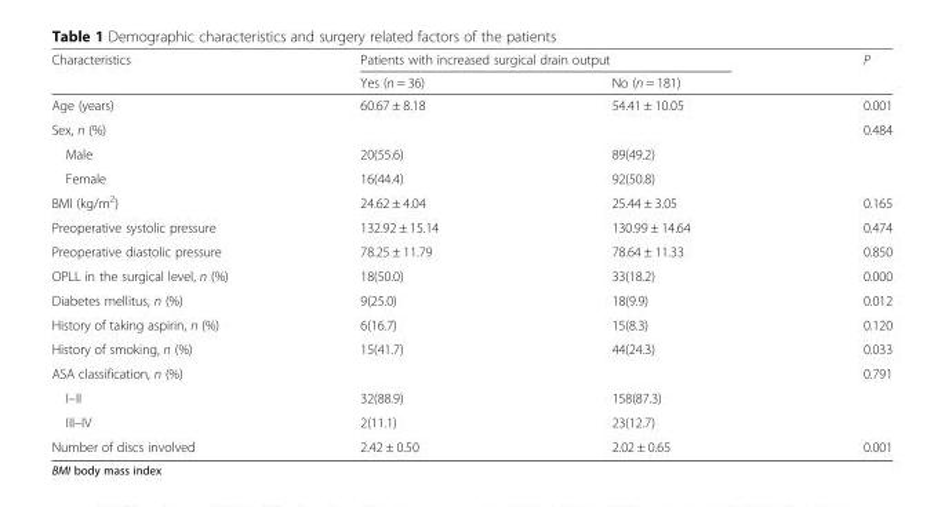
<table><thead><tr><td rowspan="2">Characteristics</td><td colspan="2">Patients with increased surgical drain output</td><td rowspan="2">P</td></tr><tr><td>Yes (n = 36)</td><td>No (n = 181)</td></tr></thead><tbody><tr><td>Age (years)</td><td>60.67 ± 8.18</td><td>54.41 ± 10.05</td><td>0.001</td></tr><tr><td>Sex, n (%)</td><td></td><td></td><td>0.484</td></tr><tr><td>Male</td><td>20(55.6)</td><td>89(49.2)</td><td></td></tr><tr><td>Female</td><td>16(44.4)</td><td>92(50.8)</td><td></td></tr><tr><td>BMI (kg/m<sup>2</sup>)</td><td>24.62 ± 4.04</td><td>25.44 ± 3.05</td><td>0.165</td></tr><tr><td>Preoperative systolic pressure</td><td>132.92 ± 15.14</td><td>130.99 ± 14.64</td><td>0.474</td></tr><tr><td>Preoperative diastolic pressure</td><td>78.25 ± 11.79</td><td>78.64 ± 11.33</td><td>0.850</td></tr><tr><td>OPLL in the surgical level, n (%)</td><td>18(50.0)</td><td>33(18.2)</td><td>0.000</td></tr><tr><td>Diabetes mellitus, n (%)</td><td>9(25.0)</td><td>18(9.9)</td><td>0.012</td></tr><tr><td>History of taking aspirin, n (%)</td><td>6(16.7)</td><td>15(8.3)</td><td>0.120</td></tr><tr><td>History of smoking, n (%)</td><td>15(41.7)</td><td>44(24.3)</td><td>0.033</td></tr><tr><td>ASA classification, n (%)</td><td></td><td></td><td>0.791</td></tr><tr><td>I–II</td><td>32(88.9)</td><td>158(87.3)</td><td></td></tr><tr><td>III–IV</td><td>2(11.1)</td><td>23(12.7)</td><td></td></tr><tr><td>Number of discs involved</td><td>2.42 ± 0.50</td><td>2.02 ± 0.65</td><td>0.001</td></tr></tbody></table>